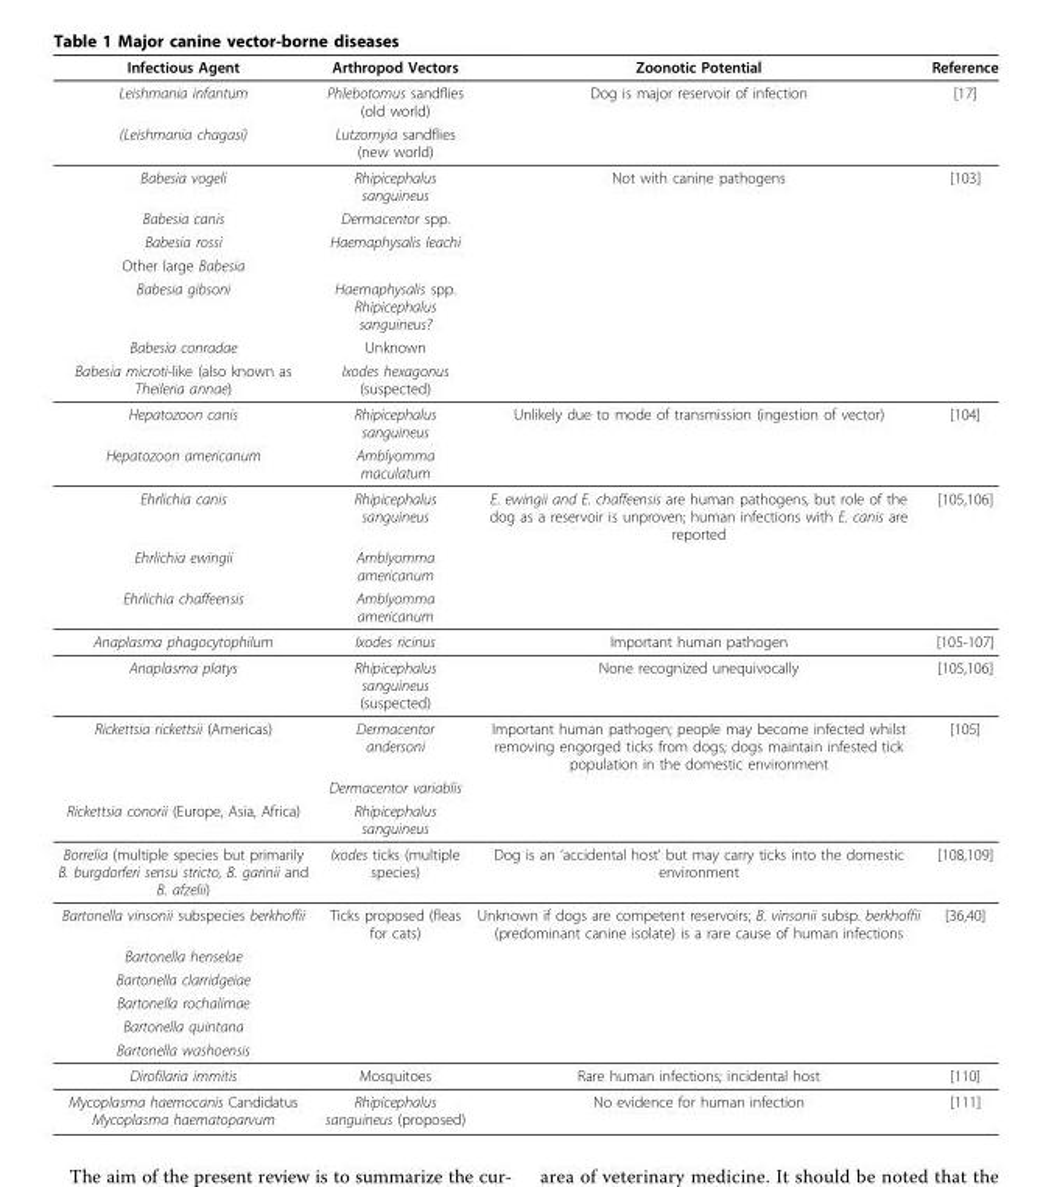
<table><thead><tr><td>Infectious Agent</td><td>Arthropod Vectors</td><td>Zoonotic Potential</td><td>Reference</td></tr></thead><tbody><tr><td>Leishmania infantum</td><td>Phlebotomus sandflies (old world)</td><td>Dog is major reservoir of infection</td><td>[17]</td></tr><tr><td>(Leishmania chagasi)</td><td>Lutzomyia sandflies (new world)</td><td></td><td></td></tr><tr><td>Babesia vogeli</td><td>Rhipicephalus sanguineus</td><td>Not with canine pathogens</td><td>[103]</td></tr><tr><td>Babesia canis</td><td>Dermacentor spp.</td><td></td><td></td></tr><tr><td>Babesia rossi</td><td>Haemaphysalis leachi</td><td></td><td></td></tr><tr><td colspan="4">Other large Babesia</td></tr><tr><td>Babesia gibsoni</td><td>Haemaphysalis spp. Rhipicephalus sanguineus?</td><td></td><td></td></tr><tr><td>Babesia conradae</td><td>Unknown</td><td></td><td></td></tr><tr><td>Babesia microti-like (also known as Theileria annae)</td><td>Ixodes hexagonus (suspected)</td><td></td><td></td></tr><tr><td>Hepatozoon canis</td><td>Rhipicephalus sanguineus</td><td>Unlikely due to mode of transmission (ingestion of vector)</td><td>[104]</td></tr><tr><td>Hepatozoon americanum</td><td>Amblyomma maculatum</td><td></td><td></td></tr><tr><td>Ehrlichia canis</td><td>Rhipicephalus sanguineus</td><td>E. ewingii and E. chaffeensis are human pathogens, but role of the dog as a reservoir is unproven; human infections with E. canis are reported</td><td>[105,106]</td></tr><tr><td>Ehrlichia ewingii</td><td>Amblyomma americanum</td><td></td><td></td></tr><tr><td>Ehrlichia chaffeensis</td><td>Amblyomma americanum</td><td></td><td></td></tr><tr><td>Anaplasma phagocytophilum</td><td>Ixodes ricinus</td><td>Important human pathogen</td><td>[105-107]</td></tr><tr><td>Anaplasma platys</td><td>Rhipicephalus sanguineus (suspected)</td><td>None recognized unequivocally</td><td>[105,106]</td></tr><tr><td rowspan="2">Rickettsia rickettsii (Americas)</td><td>Dermacentor andersoni</td><td>Important human pathogen; people may become infected whilst removing engorged ticks from dogs; dogs maintain infested tick population in the domestic environment</td><td>[105]</td></tr><tr><td>Dermacentor variablis</td><td></td><td></td></tr><tr><td>Rickettsia conorii (Europe, Asia, Africa)</td><td>Rhipicephalus sanguineus</td><td></td><td></td></tr><tr><td>Borrelia (multiple species but primarily B. burgdorferi sensu stricto, B. garinii and B. afzelii)</td><td>Ixodes ticks (multiple species)</td><td>Dog is an ‘accidental host’ but may carry ticks into the domestic environment</td><td>[108,109]</td></tr><tr><td>Bartonella vinsonii subspecies berkhoffii</td><td>Ticks proposed (fleas for cats)</td><td>Unknown if dogs are competent reservoirs; B. vinsonii subsp. berkhoffii (predominant canine isolate) is a rare cause of human infections</td><td>[36,40]</td></tr><tr><td colspan="4">Bartonella henselae</td></tr><tr><td colspan="4">Bartonella clarridgeiae</td></tr><tr><td colspan="4">Bartonella rochalimae</td></tr><tr><td colspan="4">Bartonella quintana</td></tr><tr><td colspan="4">Bartonella washoensis</td></tr><tr><td>Dirofilaria immitis</td><td>Mosquitoes</td><td>Rare human infections; incidental host</td><td>[110]</td></tr><tr><td>Mycoplasma haemocanis Candidatus Mycoplasma haematoparvum</td><td>Rhipicephalus sanguineus (proposed)</td><td>No evidence for human infection</td><td>[111]</td></tr></tbody></table>